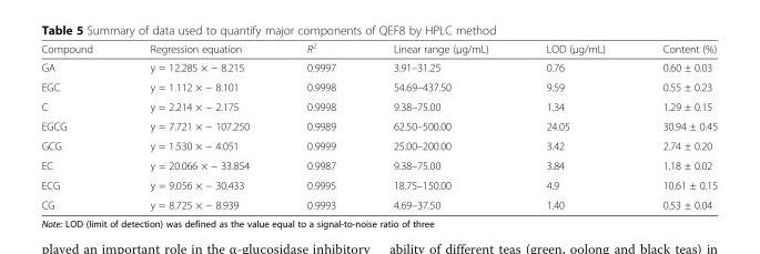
<table><thead><tr><td>Compound</td><td>Regression equation</td><td>R<sup>2</sup></td><td>Linear range (μg/mL)</td><td>LOD (μg/mL)</td><td>Content (%)</td></tr></thead><tbody><tr><td>GA</td><td>y = 12.285 × − 8.215</td><td>0.9997</td><td>3.91–31.25</td><td>0.76</td><td>0.60 ± 0.03</td></tr><tr><td>EGC</td><td>y = 1.112 × − 8.101</td><td>0.9998</td><td>54.69–437.50</td><td>9.59</td><td>0.55 ± 0.23</td></tr><tr><td>C</td><td>y = 2.214 × − 2.175</td><td>0.9998</td><td>9.38–75.00</td><td>1.34</td><td>1.29 ± 0.15</td></tr><tr><td>EGCG</td><td>y = 7.721 × − 107.250</td><td>0.9989</td><td>62.50–500.00</td><td>24.05</td><td>30.94 ± 0.45</td></tr><tr><td>GCG</td><td>y = 1.530 × − 4.051</td><td>0.9999</td><td>25.00–200.00</td><td>3.42</td><td>2.74 ± 0.20</td></tr><tr><td>EC</td><td>y = 20.066 × − 33.854</td><td>0.9987</td><td>9.38–75.00</td><td>3.84</td><td>1.18 ± 0.02</td></tr><tr><td>ECG</td><td>y = 9.056 × − 30.433</td><td>0.9995</td><td>18.75–150.00</td><td>4.9</td><td>10.61 ± 0.15</td></tr><tr><td>CG</td><td>y = 8.725 × − 8.939</td><td>0.9993</td><td>4.69–37.50</td><td>1.40</td><td>0.53 ± 0.04</td></tr></tbody></table>